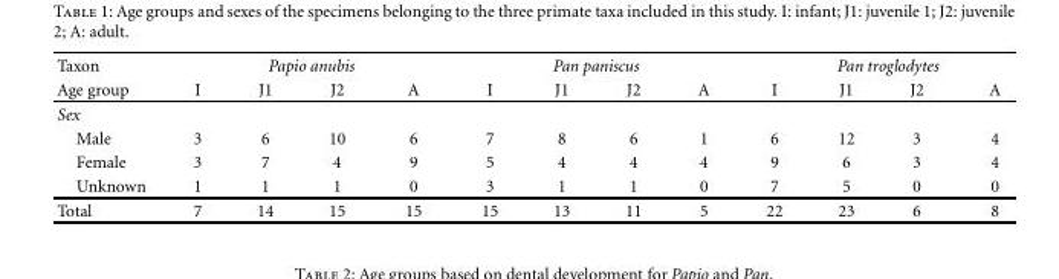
<table><thead><tr><td rowspan="2">Taxon Age group</td><td colspan="4">Papio anubis</td><td colspan="4">Pan paniscus</td><td colspan="4">Pan troglodytes</td></tr><tr><td>I</td><td>J1</td><td>J2</td><td>A</td><td>I</td><td>J1</td><td>J2</td><td>A</td><td>I</td><td>J1</td><td>J2</td><td>A</td></tr></thead><tbody><tr><td colspan="13">Sex</td></tr><tr><td>Male</td><td>3</td><td>6</td><td>10</td><td>6</td><td>7</td><td>8</td><td>6</td><td>1</td><td>6</td><td>12</td><td>3</td><td>4</td></tr><tr><td>Female</td><td>3</td><td>7</td><td>4</td><td>9</td><td>5</td><td>4</td><td>4</td><td>4</td><td>9</td><td>6</td><td>3</td><td>4</td></tr><tr><td>Unknown</td><td>1</td><td>1</td><td>1</td><td>0</td><td>3</td><td>1</td><td>1</td><td>0</td><td>7</td><td>5</td><td>0</td><td>0</td></tr><tr><td>Total</td><td>7</td><td>14</td><td>15</td><td>15</td><td>15</td><td>13</td><td>11</td><td>5</td><td>22</td><td>23</td><td>6</td><td>8</td></tr></tbody></table>